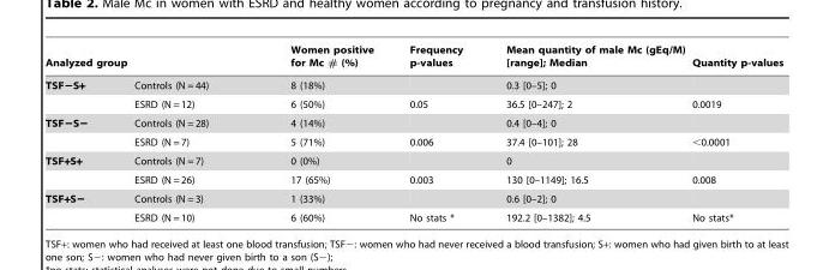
<table><thead><tr><td colspan="2">Analyzed group</td><td rowspan="2">Women positive for Mc # (%) 8 (18%)</td><td rowspan="2">Frequency p-values</td><td rowspan="2">Mean quantity of male Mc (gEq/M) [range]; Median 0.3 [0–5]; 0</td><td rowspan="2">Quantity p-values</td></tr><tr><td>TSF−S+</td><td>Controls (N = 44)</td></tr></thead><tbody><tr><td></td><td>ESRD (N = 12)</td><td>6 (50%)</td><td>0.05</td><td>36.5 [0–247]; 2</td><td>0.0019</td></tr><tr><td rowspan="2">TSF−S−</td><td>Controls (N = 28)</td><td>4 (14%)</td><td></td><td>0.4 [0–4]; 0</td><td></td></tr><tr><td>ESRD (N = 7)</td><td>5 (71%)</td><td>0.006</td><td>37.4 [0–101]; 28</td><td>&lt;0.0001</td></tr><tr><td rowspan="2">TSF+S+</td><td>Controls (N = 7)</td><td>0 (0%)</td><td></td><td>0</td><td></td></tr><tr><td>ESRD (N = 26)</td><td>17 (65%)</td><td>0.003</td><td>130 [0–1149]; 16.5</td><td>0.008</td></tr><tr><td rowspan="2">TSF+S−</td><td>Controls (N = 3)</td><td>1 (33%)</td><td></td><td>0.6 [0–2]; 0</td><td></td></tr><tr><td>ESRD (N = 10)</td><td>6 (60%)</td><td>No stats *</td><td>192.2 [0–1382]; 4.5</td><td>No stats*</td></tr></tbody></table>